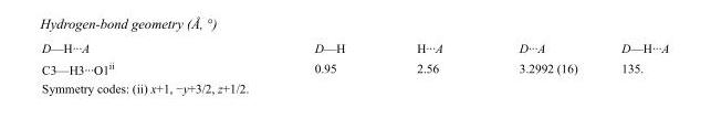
<table><tbody><tr><td>D—H···A</td><td>D—H</td><td>H···A</td><td>D···A</td><td>D—H···A</td></tr><tr><td>C3—H3···O1<sup>ii</sup></td><td>0.95</td><td>2.56</td><td>3.2992 (16)</td><td>135.</td></tr></tbody></table>